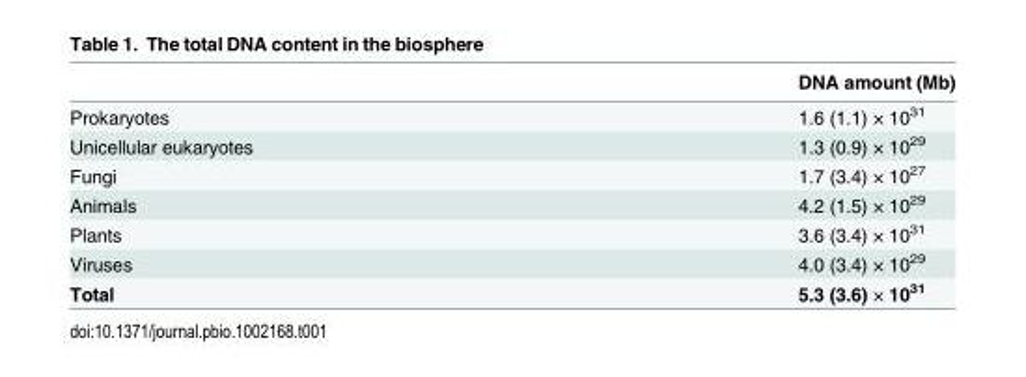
<table><thead><tr><td></td><td>DNA amount (Mb)</td></tr></thead><tbody><tr><td>Prokaryotes</td><td>1.6 (1.1) × 10<sup>31</sup></td></tr><tr><td>Unicellular eukaryotes</td><td>1.3 (0.9) × 10<sup>29</sup></td></tr><tr><td>Fungi</td><td>1.7 (3.4) × 10<sup>27</sup></td></tr><tr><td>Animals</td><td>4.2 (1.5) × 10<sup>29</sup></td></tr><tr><td>Plants</td><td>3.6 (3.4) × 10<sup>31</sup></td></tr><tr><td>Viruses</td><td>4.0 (3.4) × 10<sup>29</sup></td></tr><tr><td>Total</td><td>5.3 (3.6) × 10<sup>31</sup></td></tr></tbody></table>